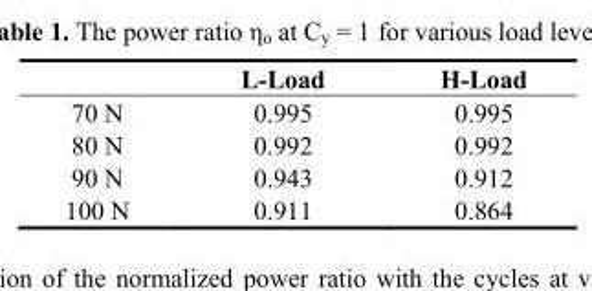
<table><thead><tr><td></td><td>L-Load</td><td>H-Load</td></tr></thead><tbody><tr><td>70 N</td><td>0.995</td><td>0.995</td></tr><tr><td>80 N</td><td>0.992</td><td>0.992</td></tr><tr><td>90 N</td><td>0.943</td><td>0.912</td></tr><tr><td>100 N</td><td>0.911</td><td>0.864</td></tr></tbody></table>